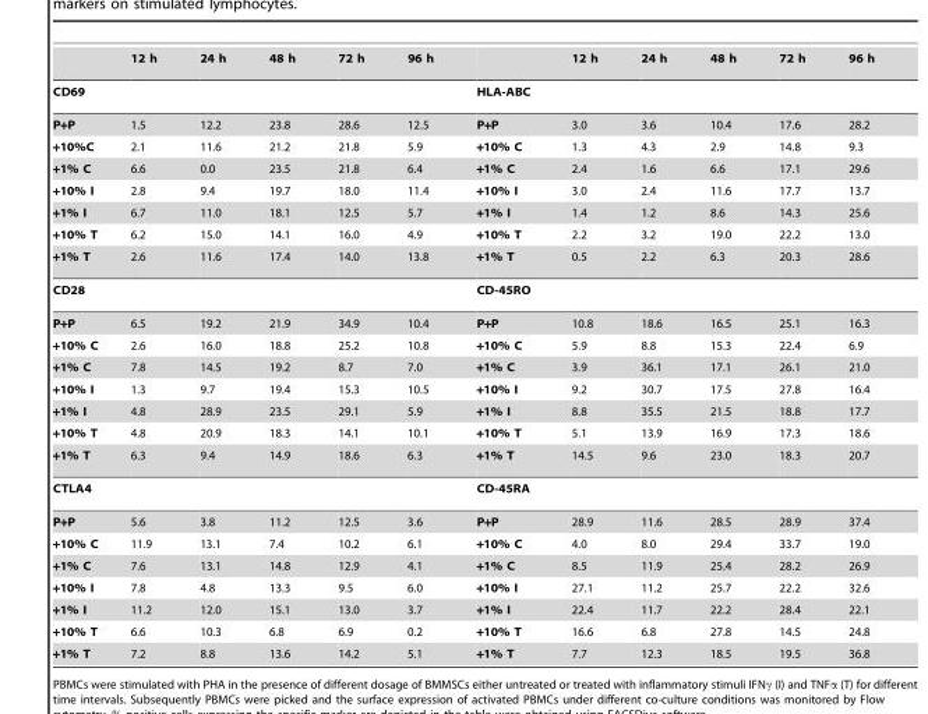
<table><thead><tr><td></td><td>12 h</td><td>24 h</td><td>48 h</td><td>72 h</td><td>96 h</td><td></td><td>12 h</td><td>24 h</td><td>48 h</td><td>72 h</td><td>96 h</td></tr></thead><tbody><tr><td colspan="6">CD69</td><td colspan="6">HLA-ABC</td></tr><tr><td>P+P</td><td>1.5</td><td>12.2</td><td>23.8</td><td>28.6</td><td>12.5</td><td>P+P</td><td>3.0</td><td>3.6</td><td>10.4</td><td>17.6</td><td>28.2</td></tr><tr><td>+10%C</td><td>2.1</td><td>11.6</td><td>21.2</td><td>21.8</td><td>5.9</td><td>+10% C</td><td>1.3</td><td>4.3</td><td>2.9</td><td>14.8</td><td>9.3</td></tr><tr><td>+1% C</td><td>6.6</td><td>0.0</td><td>23.5</td><td>21.8</td><td>6.4</td><td>+1% C</td><td>2.4</td><td>1.6</td><td>6.6</td><td>17.1</td><td>29.6</td></tr><tr><td>+10% I</td><td>2.8</td><td>9.4</td><td>19.7</td><td>18.0</td><td>11.4</td><td>+10% I</td><td>3.0</td><td>2.4</td><td>11.6</td><td>17.7</td><td>13.7</td></tr><tr><td>+1% I</td><td>6.7</td><td>11.0</td><td>18.1</td><td>12.5</td><td>5.7</td><td>+1% I</td><td>1.4</td><td>1.2</td><td>8.6</td><td>14.3</td><td>25.6</td></tr><tr><td>+10% T</td><td>6.2</td><td>15.0</td><td>14.1</td><td>16.0</td><td>4.9</td><td>+10% T</td><td>2.2</td><td>3.2</td><td>19.0</td><td>22.2</td><td>13.0</td></tr><tr><td>+1% T</td><td>2.6</td><td>11.6</td><td>17.4</td><td>14.0</td><td>13.8</td><td>+1% T</td><td>0.5</td><td>2.2</td><td>6.3</td><td>20.3</td><td>28.6</td></tr><tr><td colspan="6">CD28</td><td colspan="6">CD-45RO</td></tr><tr><td>P+P</td><td>6.5</td><td>19.2</td><td>21.9</td><td>34.9</td><td>10.4</td><td>P+P</td><td>10.8</td><td>18.6</td><td>16.5</td><td>25.1</td><td>16.3</td></tr><tr><td>+10% C</td><td>2.6</td><td>16.0</td><td>18.8</td><td>25.2</td><td>10.8</td><td>+10% C</td><td>5.9</td><td>8.8</td><td>15.3</td><td>22.4</td><td>6.9</td></tr><tr><td>+1% C</td><td>7.8</td><td>14.5</td><td>19.2</td><td>8.7</td><td>7.0</td><td>+1% C</td><td>3.9</td><td>36.1</td><td>17.1</td><td>26.1</td><td>21.0</td></tr><tr><td>+10% I</td><td>1.3</td><td>9.7</td><td>19.4</td><td>15.3</td><td>10.5</td><td>+10% I</td><td>9.2</td><td>30.7</td><td>17.5</td><td>27.8</td><td>16.4</td></tr><tr><td>+1% I</td><td>4.8</td><td>28.9</td><td>23.5</td><td>29.1</td><td>5.9</td><td>+1% I</td><td>8.8</td><td>35.5</td><td>21.5</td><td>18.8</td><td>17.7</td></tr><tr><td>+10% T</td><td>4.8</td><td>20.9</td><td>18.3</td><td>14.1</td><td>10.1</td><td>+10% T</td><td>5.1</td><td>13.9</td><td>16.9</td><td>17.3</td><td>18.6</td></tr><tr><td>+1% T</td><td>6.3</td><td>9.4</td><td>14.9</td><td>18.6</td><td>6.3</td><td>+1% T</td><td>14.5</td><td>9.6</td><td>23.0</td><td>18.3</td><td>20.7</td></tr><tr><td colspan="6">CTLA4</td><td colspan="6">CD-45RA</td></tr><tr><td>P+P</td><td>5.6</td><td>3.8</td><td>11.2</td><td>12.5</td><td>3.6</td><td>P+P</td><td>28.9</td><td>11.6</td><td>28.5</td><td>28.9</td><td>37.4</td></tr><tr><td>+10% C</td><td>11.9</td><td>13.1</td><td>7.4</td><td>10.2</td><td>6.1</td><td>+10% C</td><td>4.0</td><td>8.0</td><td>29.4</td><td>33.7</td><td>19.0</td></tr><tr><td>+1% C</td><td>7.6</td><td>13.1</td><td>14.8</td><td>12.9</td><td>4.1</td><td>+1% C</td><td>8.5</td><td>11.9</td><td>25.4</td><td>28.2</td><td>26.9</td></tr><tr><td>+10% I</td><td>7.8</td><td>4.8</td><td>13.3</td><td>9.5</td><td>6.0</td><td>+10% I</td><td>27.1</td><td>11.2</td><td>25.7</td><td>22.2</td><td>32.6</td></tr><tr><td>+1% I</td><td>11.2</td><td>12.0</td><td>15.1</td><td>13.0</td><td>3.7</td><td>+1% I</td><td>22.4</td><td>11.7</td><td>22.2</td><td>28.4</td><td>22.1</td></tr><tr><td>+10% T</td><td>6.6</td><td>10.3</td><td>6.8</td><td>6.9</td><td>0.2</td><td>+10% T</td><td>16.6</td><td>6.8</td><td>27.8</td><td>14.5</td><td>24.8</td></tr><tr><td>+1% T</td><td>7.2</td><td>8.8</td><td>13.6</td><td>14.2</td><td>5.1</td><td>+1% T</td><td>7.7</td><td>12.3</td><td>18.5</td><td>19.5</td><td>36.8</td></tr></tbody></table>